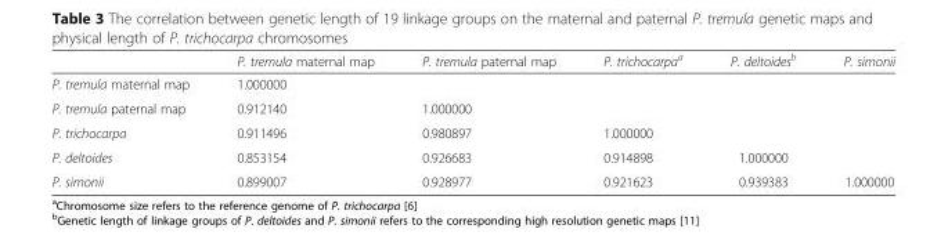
<table><thead><tr><td></td><td>P. tremula maternal map</td><td>P. tremula paternal map</td><td>P. trichocarpa<sup>a</sup></td><td>P. deltoides<sup>b</sup></td><td>P. simonii</td></tr></thead><tbody><tr><td>P. tremula maternal map</td><td>1.000000</td><td></td><td></td><td></td><td></td></tr><tr><td>P. tremula paternal map</td><td>0.912140</td><td>1.000000</td><td></td><td></td><td></td></tr><tr><td>P. trichocarpa</td><td>0.911496</td><td>0.980897</td><td>1.000000</td><td></td><td></td></tr><tr><td>P. deltoides</td><td>0.853154</td><td>0.926683</td><td>0.914898</td><td>1.000000</td><td></td></tr><tr><td>P. simonii</td><td>0.899007</td><td>0.928977</td><td>0.921623</td><td>0.939383</td><td>1.000000</td></tr></tbody></table>